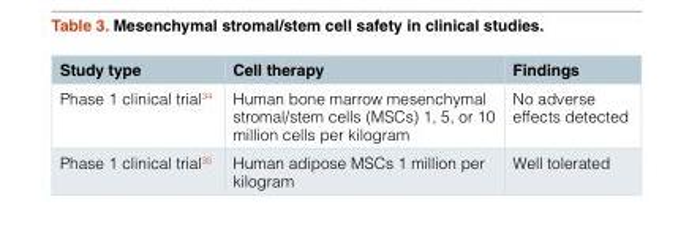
<table><thead><tr><td>Study type</td><td>Cell therapy</td><td>Findings</td></tr></thead><tbody><tr><td>Phase 1 clinical trial<sup>34</sup></td><td>Human bone marrow mesenchymal stromal/stem cells (MSCs) 1, 5, or 10 million cells per kilogram</td><td>No adverse effects detected</td></tr><tr><td>Phase 1 clinical trial<sup>35</sup></td><td>Human adipose MSCs 1 million per kilogram</td><td>Well tolerated</td></tr></tbody></table>